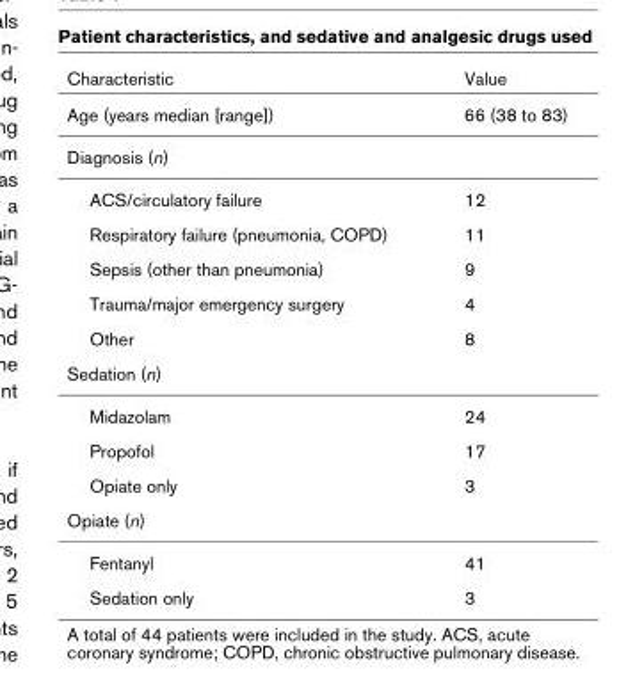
<table><thead><tr><td>Characteristic</td><td>Value</td></tr></thead><tbody><tr><td>Age (years median [range])</td><td>66 (38 to 83)</td></tr><tr><td colspan="2">Diagnosis (n)</td></tr><tr><td>ACS/circulatory failure</td><td>12</td></tr><tr><td>Respiratory failure (pneumonia, COPD)</td><td>11</td></tr><tr><td>Sepsis (other than pneumonia)</td><td>9</td></tr><tr><td>Trauma/major emergency surgery</td><td>4</td></tr><tr><td>Other</td><td>8</td></tr><tr><td colspan="2">Sedation (n)</td></tr><tr><td>Midazolam</td><td>24</td></tr><tr><td>Propofol</td><td>17</td></tr><tr><td>Opiate only</td><td>3</td></tr><tr><td colspan="2">Opiate (n)</td></tr><tr><td>Fentanyl</td><td>41</td></tr><tr><td>Sedation only</td><td>3</td></tr></tbody></table>